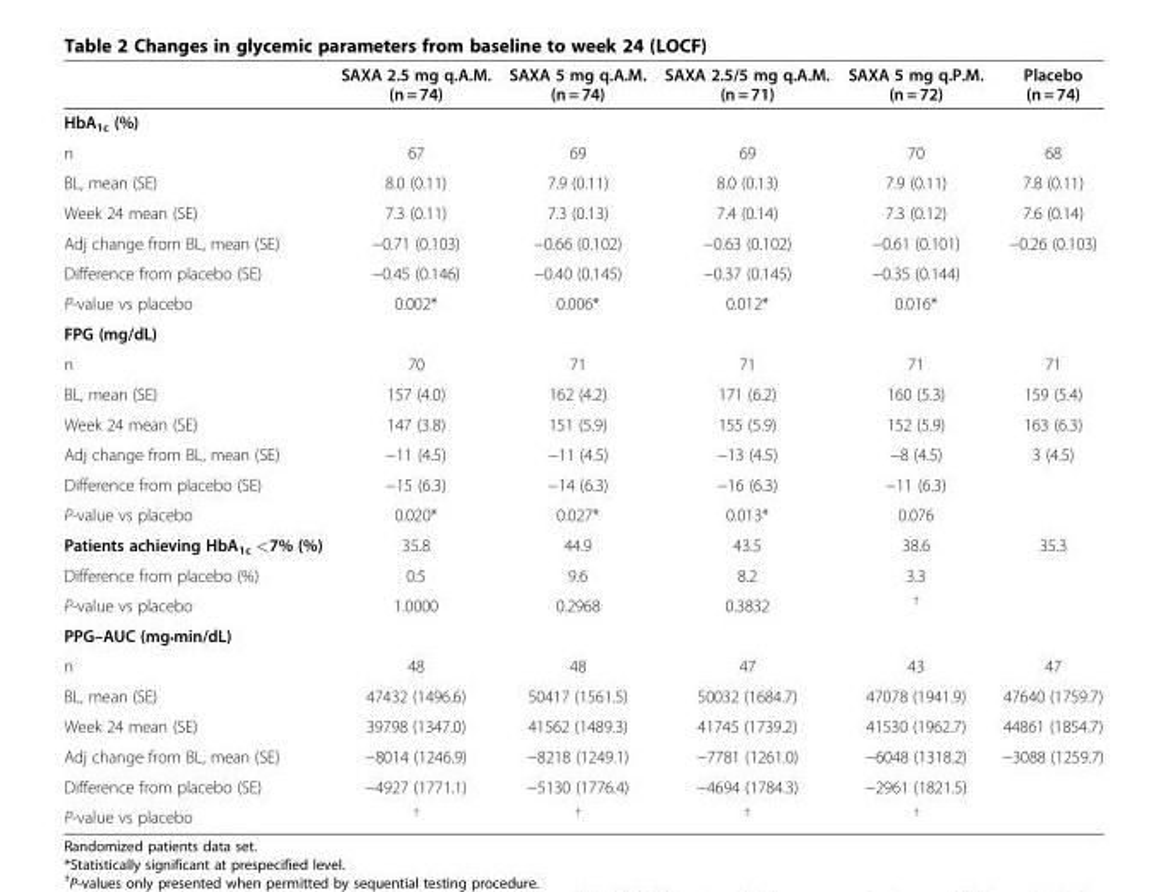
<table><thead><tr><td></td><td>SAXA 2.5 mg q.A.M. (n = 74)</td><td>SAXA 5 mg q.A.M. (n = 74)</td><td>SAXA 2.5/5 mg q.A.M. (n = 71)</td><td>SAXA 5 mg q.P.M. (n = 72)</td><td>Placebo (n = 74)</td></tr></thead><tbody><tr><td colspan="6">HbA<sub>1c</sub> (%)</td></tr><tr><td>n</td><td>67</td><td>69</td><td>69</td><td>70</td><td>68</td></tr><tr><td>BL, mean (SE)</td><td>8.0 (0.11)</td><td>7.9 (0.11)</td><td>8.0 (0.13)</td><td>7.9 (0.11)</td><td>7.8 (0.11)</td></tr><tr><td>Week 24 mean (SE)</td><td>7.3 (0.11)</td><td>7.3 (0.13)</td><td>7.4 (0.14)</td><td>7.3 (0.12)</td><td>7.6 (0.14)</td></tr><tr><td>Adj change from BL, mean (SE)</td><td>−0.71 (0.103)</td><td>−0.66 (0.102)</td><td>−0.63 (0.102)</td><td>−0.61 (0.101)</td><td>−0.26 (0.103)</td></tr><tr><td>Difference from placebo (SE)</td><td>−0.45 (0.146)</td><td>−0.40 (0.145)</td><td>−0.37 (0.145)</td><td>−0.35 (0.144)</td><td></td></tr><tr><td>P-value vs placebo</td><td>0.002*</td><td>0.006*</td><td>0.012*</td><td>0.016*</td><td></td></tr><tr><td colspan="6">FPG (mg/dL)</td></tr><tr><td>n</td><td>70</td><td>71</td><td>71</td><td>71</td><td>71</td></tr><tr><td>BL, mean (SE)</td><td>157 (4.0)</td><td>162 (4.2)</td><td>171 (6.2)</td><td>160 (5.3)</td><td>159 (5.4)</td></tr><tr><td>Week 24 mean (SE)</td><td>147 (3.8)</td><td>151 (5.9)</td><td>155 (5.9)</td><td>152 (5.9)</td><td>163 (6.3)</td></tr><tr><td>Adj change from BL, mean (SE)</td><td>−11 (4.5)</td><td>−11 (4.5)</td><td>−13 (4.5)</td><td>−8 (4.5)</td><td>3 (4.5)</td></tr><tr><td>Difference from placebo (SE)</td><td>−15 (6.3)</td><td>−14 (6.3)</td><td>−16 (6.3)</td><td>−11 (6.3)</td><td></td></tr><tr><td>P-value vs placebo</td><td>0.020*</td><td>0.027*</td><td>0.013*</td><td>0.076</td><td></td></tr><tr><td>Patients achieving HbA<sub>1c</sub> &lt;7% (%)</td><td>35.8</td><td>44.9</td><td>43.5</td><td>38.6</td><td>35.3</td></tr><tr><td>Difference from placebo (%)</td><td>0.5</td><td>9.6</td><td>8.2</td><td>3.3</td><td></td></tr><tr><td>P-value vs placebo</td><td>1.0000</td><td>0.2968</td><td>0.3832</td><td><sup>†</sup></td><td></td></tr><tr><td colspan="6">PPG–AUC (mg•min/dL)</td></tr><tr><td>n</td><td>48</td><td>48</td><td>47</td><td>43</td><td>47</td></tr><tr><td>BL, mean (SE)</td><td>47432 (1496.6)</td><td>50417 (1561.5)</td><td>50032 (1684.7)</td><td>47078 (1941.9)</td><td>47640 (1759.7)</td></tr><tr><td>Week 24 mean (SE)</td><td>39798 (1347.0)</td><td>41562 (1489.3)</td><td>41745 (1739.2)</td><td>41530 (1962.7)</td><td>44861 (1854.7)</td></tr><tr><td>Adj change from BL, mean (SE)</td><td>−8014 (1246.9)</td><td>−8218 (1249.1)</td><td>−7781 (1261.0)</td><td>−6048 (1318.2)</td><td>−3088 (1259.7)</td></tr><tr><td>Difference from placebo (SE)</td><td>−4927 (1771.1)</td><td>−5130 (1776.4)</td><td>−4694 (1784.3)</td><td>−2961 (1821.5)</td><td></td></tr><tr><td>P-value vs placebo</td><td><sup>†</sup></td><td><sup>†</sup></td><td><sup>†</sup></td><td><sup>†</sup></td><td></td></tr></tbody></table>